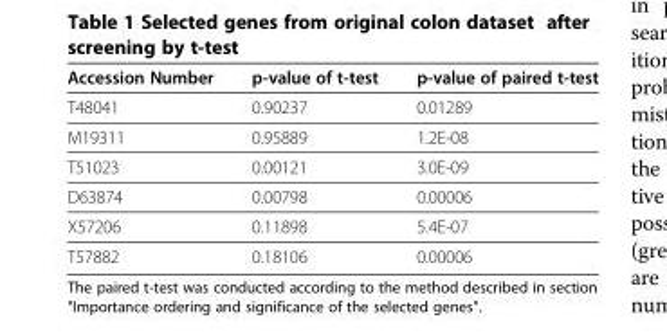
<table><thead><tr><td>Accession Number</td><td>p-value of t-test</td><td>p-value of paired t-test</td></tr></thead><tbody><tr><td>T48041</td><td>0.90237</td><td>0.01289</td></tr><tr><td>M19311</td><td>0.95889</td><td>1.2E-08</td></tr><tr><td>T51023</td><td>0.00121</td><td>3.0E-09</td></tr><tr><td>D63874</td><td>0.00798</td><td>0.00006</td></tr><tr><td>X57206</td><td>0.11898</td><td>5.4E-07</td></tr><tr><td>T57882</td><td>0.18106</td><td>0.00006</td></tr></tbody></table>